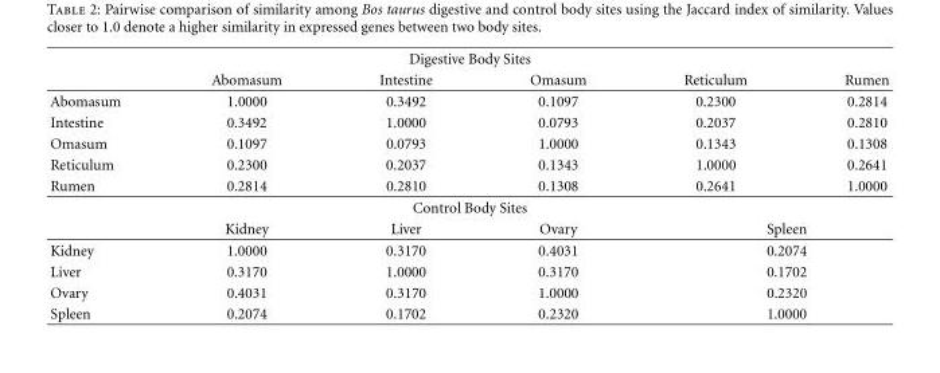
<table><thead><tr><td colspan="6">Digestive Body Sites</td></tr><tr><td></td><td>Abomasum</td><td>Intestine</td><td>Omasum</td><td>Reticulum</td><td>Rumen</td></tr></thead><tbody><tr><td>Abomasum</td><td>1.0000</td><td>0.3492</td><td>0.1097</td><td>0.2300</td><td>0.2814</td></tr><tr><td>Intestine</td><td>0.3492</td><td>1.0000</td><td>0.0793</td><td>0.2037</td><td>0.2810</td></tr><tr><td>Omasum</td><td>0.1097</td><td>0.0793</td><td>1.0000</td><td>0.1343</td><td>0.1308</td></tr><tr><td>Reticulum</td><td>0.2300</td><td>0.2037</td><td>0.1343</td><td>1.0000</td><td>0.2641</td></tr><tr><td>Rumen</td><td>0.2814</td><td>0.2810</td><td>0.1308</td><td>0.2641</td><td>1.0000</td></tr><tr><td colspan="6">Control Body Sites</td></tr><tr><td></td><td>Kidney</td><td>Liver</td><td>Ovary</td><td colspan="2">Spleen</td></tr><tr><td>Kidney</td><td>1.0000</td><td>0.3170</td><td>0.4031</td><td colspan="2">0.2074</td></tr><tr><td>Liver</td><td>0.3170</td><td>1.0000</td><td>0.3170</td><td colspan="2">0.1702</td></tr><tr><td>Ovary</td><td>0.4031</td><td>0.3170</td><td>1.0000</td><td colspan="2">0.2320</td></tr><tr><td>Spleen</td><td>0.2074</td><td>0.1702</td><td>0.2320</td><td colspan="2">1.0000</td></tr></tbody></table>